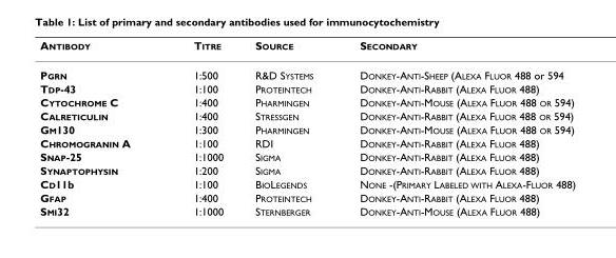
<table><thead><tr><td>ANTIBODY</td><td>TITRE</td><td>SOURCE</td><td>SECONDARY</td></tr></thead><tbody><tr><td>PGRN</td><td>1:500</td><td>R&amp;D SYSTEMS</td><td>DONKEY-ANTI-SHEEP (ALEXA FLUOR 488 or 594</td></tr><tr><td>TDP-43</td><td>1:100</td><td>PROTEINTECH</td><td>DONKEY-ANTI-RABBIT (ALEXA FLUOR 488)</td></tr><tr><td>CYTOCHROME C</td><td>1:400</td><td>PHARMINGEN</td><td>DONKEY-ANTI-MOUSE (ALEXA FLUOR 488 OR 594)</td></tr><tr><td>CALRETICULIN</td><td>1:400</td><td>STRESSGEN</td><td>DONKEY-ANTI-RABBIT (ALEXA FLUOR 488 OR 594)</td></tr><tr><td>GM130</td><td>1:300</td><td>PHARMINGEN</td><td>DONKEY-ANTI-MOUSE (ALEXA FLUOR 488 OR 594)</td></tr><tr><td>CHROMOGRANIN A</td><td>1:100</td><td>RDI</td><td>DONKEY-ANTI-RABBIT (ALEXA FLUOR 488)</td></tr><tr><td>SNAP-25</td><td>1:1000</td><td>SIGMA</td><td>DONKEY-ANTI-RABBIT (ALEXA FLUOR 488)</td></tr><tr><td>SYNAPTOPHYSIN</td><td>1:200</td><td>SIGMA</td><td>DONKEY-ANTI-RABBIT (ALEXA FLUOR 488)</td></tr><tr><td>CD11b</td><td>1:100</td><td>BIOLEGENDS</td><td>NONE -(PRIMARY LABELED WITH ALEXA-FLUOR 488)</td></tr><tr><td>GFAP</td><td>1:400</td><td>PROTEINTECH</td><td>DONKEY-ANTI-RABBIT (ALEXA FLUOR 488)</td></tr><tr><td>SMI32</td><td>1:1000</td><td>STERNBERGER</td><td>DONKEY-ANTI-MOUSE (ALEXA FLUOR 488)</td></tr></tbody></table>